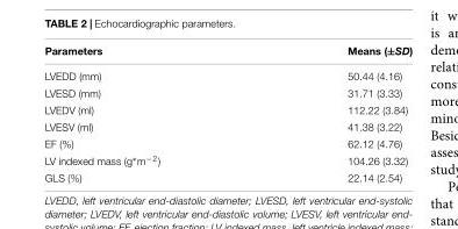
<table><thead><tr><td>Parameters</td><td>Means (±SD)</td></tr></thead><tbody><tr><td>LVEDD (mm)</td><td>50.44 (4.16)</td></tr><tr><td>LVESD (mm)</td><td>31.71 (3.33)</td></tr><tr><td>LVEDV (ml)</td><td>112.22 (3.84)</td></tr><tr><td>LVESV (ml)</td><td>41.38 (3.22)</td></tr><tr><td>EF (%)</td><td>62.12 (4.76)</td></tr><tr><td>LV indexed mass (g∗m<sup>−2</sup>)</td><td>104.26 (3.32)</td></tr><tr><td>GLS (%)</td><td>22.14 (2.54)</td></tr></tbody></table>